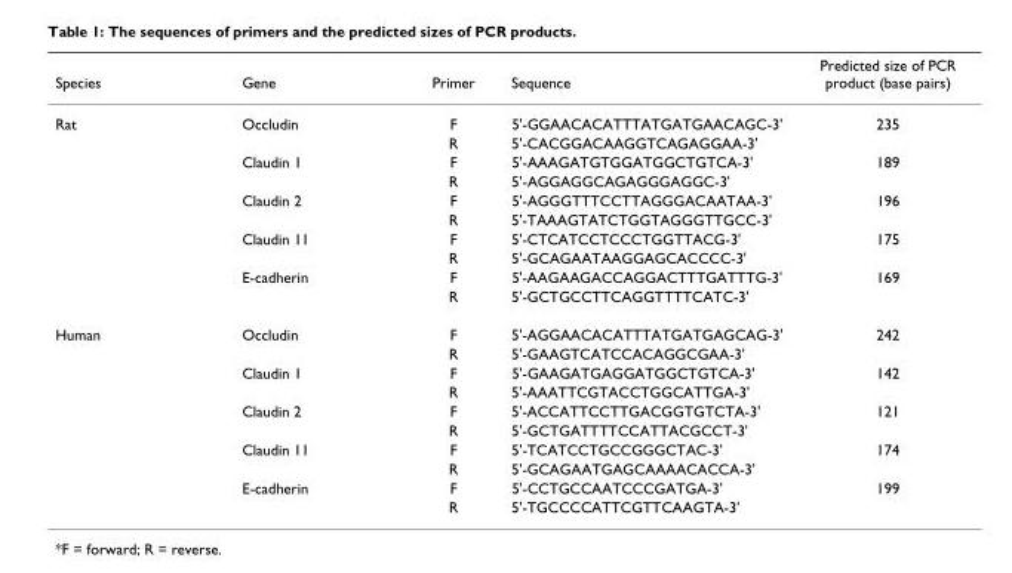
<table><thead><tr><td>Species</td><td>Gene</td><td>Primer</td><td>Sequence</td><td>Predicted size of PCR product (base pairs)</td></tr></thead><tbody><tr><td rowspan="10">Rat</td><td>Occludin</td><td>F</td><td>5&#x27;-GGAACACATTTATGATGAACAGC-3&#x27;</td><td>235</td></tr><tr><td></td><td>R</td><td>5&#x27;-CACGGACAAGGTCAGAGGAA-3&#x27;</td><td></td></tr><tr><td>Claudin 1</td><td>F</td><td>5&#x27;-AAAGATGTGGATGGCTGTCA-3&#x27;</td><td>189</td></tr><tr><td></td><td>R</td><td>5&#x27;-AGGAGGCAGAGGGAGGC-3&#x27;</td><td></td></tr><tr><td>Claudin 2</td><td>F</td><td>5&#x27;-AGGGTTTCCTTAGGGACAATAA-3&#x27;</td><td>196</td></tr><tr><td></td><td>R</td><td>5&#x27;-TAAAGTATCTGGTAGGGTTGCC-3&#x27;</td><td></td></tr><tr><td>Claudin 11</td><td>F</td><td>5&#x27;-CTCATCCTCCCTGGTTACG-3&#x27;</td><td>175</td></tr><tr><td></td><td>R</td><td>5&#x27;-GCAGAATAAGGAGCACCCC-3&#x27;</td><td></td></tr><tr><td>E-cadherin</td><td>F</td><td>5&#x27;-AAGAAGACCAGGACTTTGATTTG-3&#x27;</td><td>169</td></tr><tr><td></td><td>R</td><td>5&#x27;-GCTGCCTTCAGGTTTTCATC-3&#x27;</td><td></td></tr><tr><td rowspan="10">Human</td><td>Occludin</td><td>F</td><td>5&#x27;-AGGAACACATTTATGATGAGCAG-3&#x27;</td><td>242</td></tr><tr><td></td><td>R</td><td>5&#x27;-GAAGTCATCCACAGGCGAA-3&#x27;</td><td></td></tr><tr><td>Claudin 1</td><td>F</td><td>5&#x27;-GAAGATGAGGATGGCTGTCA-3&#x27;</td><td>142</td></tr><tr><td></td><td>R</td><td>5&#x27;-AAATTCGTACCTGGCATTGA-3&#x27;</td><td></td></tr><tr><td>Claudin 2</td><td>F</td><td>5&#x27;-ACCATTCCTTGACGGTGTCTA-3&#x27;</td><td>121</td></tr><tr><td></td><td>R</td><td>5&#x27;-GCTGATTTTCCATTACGCCT-3&#x27;</td><td></td></tr><tr><td>Claudin 11</td><td>F</td><td>5&#x27;-TCATCCTGCCGGGCTAC-3&#x27;</td><td>174</td></tr><tr><td></td><td>R</td><td>5&#x27;-GCAGAATGAGCAAAACACCA-3&#x27;</td><td></td></tr><tr><td>E-cadherin</td><td>F</td><td>5&#x27;-CCTGCCAATCCCGATGA-3&#x27;</td><td>199</td></tr><tr><td></td><td>R</td><td>5&#x27;-TGCCCCATTCGTTCAAGTA-3&#x27;</td><td></td></tr></tbody></table>